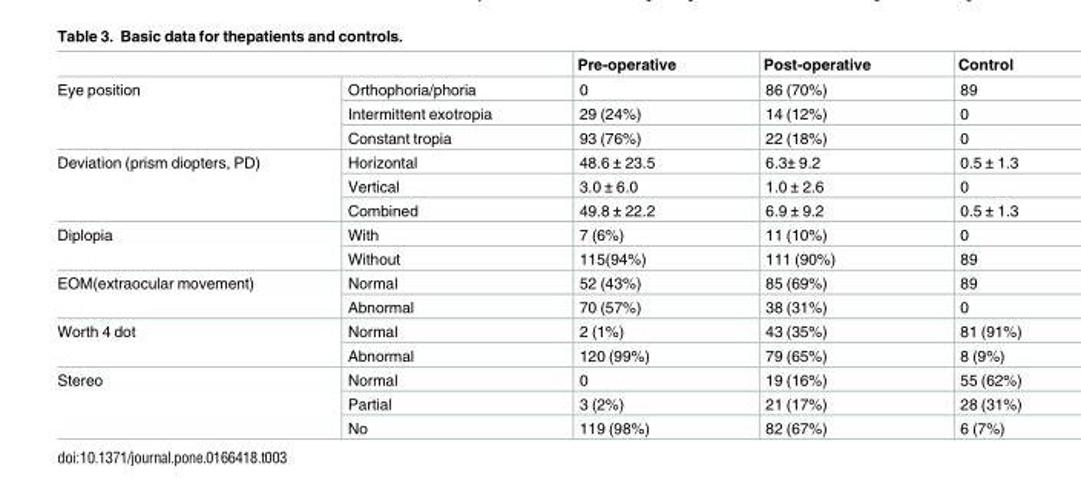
<table><thead><tr><td></td><td></td><td>Pre-operative</td><td>Post-operative</td><td>Control</td></tr></thead><tbody><tr><td rowspan="3">Eye position</td><td>Orthophoria/phoria</td><td>0</td><td>86 (70%)</td><td>89</td></tr><tr><td>Intermittent exotropia</td><td>29 (24%)</td><td>14 (12%)</td><td>0</td></tr><tr><td>Constant tropia</td><td>93 (76%)</td><td>22 (18%)</td><td>0</td></tr><tr><td rowspan="3">Deviation (prism diopters, PD)</td><td>Horizontal</td><td>48.6 ± 23.5</td><td>6.3± 9.2</td><td>0.5 ± 1.3</td></tr><tr><td>Vertical</td><td>3.0 ± 6.0</td><td>1.0 ± 2.6</td><td>0</td></tr><tr><td>Combined</td><td>49.8 ± 22.2</td><td>6.9 ± 9.2</td><td>0.5 ± 1.3</td></tr><tr><td rowspan="2">Diplopia</td><td>With</td><td>7 (6%)</td><td>11 (10%)</td><td>0</td></tr><tr><td>Without</td><td>115(94%)</td><td>111 (90%)</td><td>89</td></tr><tr><td rowspan="2">EOM(extraocular movement)</td><td>Normal</td><td>52 (43%)</td><td>85 (69%)</td><td>89</td></tr><tr><td>Abnormal</td><td>70 (57%)</td><td>38 (31%)</td><td>0</td></tr><tr><td rowspan="2">Worth 4 dot</td><td>Normal</td><td>2 (1%)</td><td>43 (35%)</td><td>81 (91%)</td></tr><tr><td>Abnormal</td><td>120 (99%)</td><td>79 (65%)</td><td>8 (9%)</td></tr><tr><td rowspan="3">Stereo</td><td>Normal</td><td>0</td><td>19 (16%)</td><td>55 (62%)</td></tr><tr><td>Partial</td><td>3 (2%)</td><td>21 (17%)</td><td>28 (31%)</td></tr><tr><td>No</td><td>119 (98%)</td><td>82 (67%)</td><td>6 (7%)</td></tr></tbody></table>